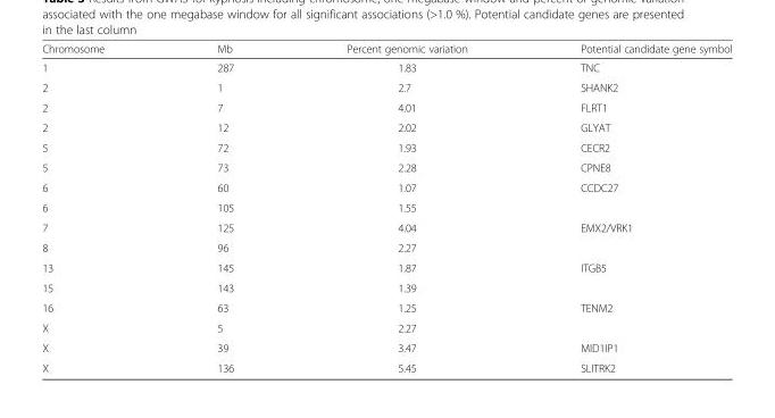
<table><thead><tr><td>Chromosome</td><td>Mb</td><td>Percent genomic variation</td><td>Potential candidate gene symbol</td></tr></thead><tbody><tr><td>1</td><td>287</td><td>1.83</td><td>TNC</td></tr><tr><td>2</td><td>1</td><td>2.7</td><td>SHANK2</td></tr><tr><td>2</td><td>7</td><td>4.01</td><td>FLRT1</td></tr><tr><td>2</td><td>12</td><td>2.02</td><td>GLYAT</td></tr><tr><td>5</td><td>72</td><td>1.93</td><td>CECR2</td></tr><tr><td>5</td><td>73</td><td>2.28</td><td>CPNE8</td></tr><tr><td>6</td><td>60</td><td>1.07</td><td>CCDC27</td></tr><tr><td>6</td><td>105</td><td>1.55</td><td></td></tr><tr><td>7</td><td>125</td><td>4.04</td><td>EMX2/VRK1</td></tr><tr><td>8</td><td>96</td><td>2.27</td><td></td></tr><tr><td>13</td><td>145</td><td>1.87</td><td>ITGB5</td></tr><tr><td>15</td><td>143</td><td>1.39</td><td></td></tr><tr><td>16</td><td>63</td><td>1.25</td><td>TENM2</td></tr><tr><td>X</td><td>5</td><td>2.27</td><td></td></tr><tr><td>X</td><td>39</td><td>3.47</td><td>MID1IP1</td></tr><tr><td>X</td><td>136</td><td>5.45</td><td>SLITRK2</td></tr></tbody></table>